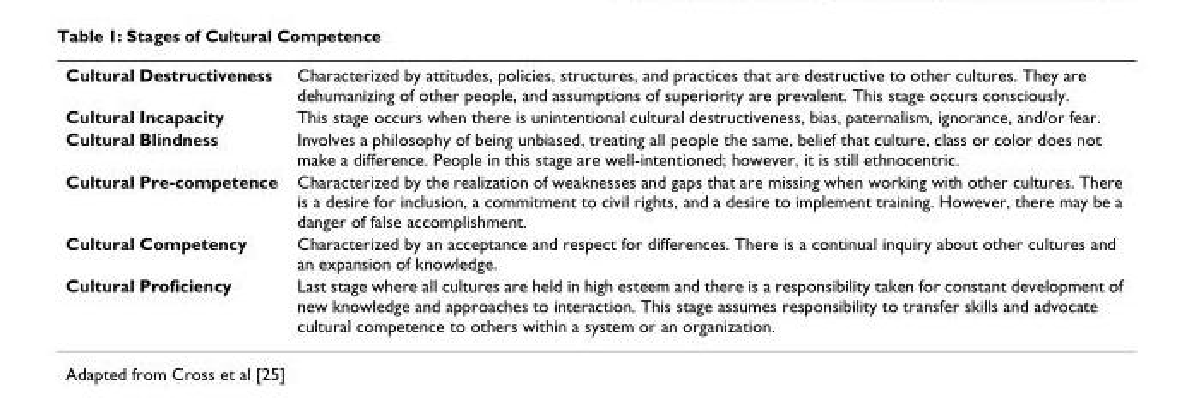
<table><tbody><tr><td>Cultural Destructiveness</td><td>Characterized by attitudes, policies, structures, and practices that are destructive to other cultures. They are dehumanizing of other people, and assumptions of superiority are prevalent. This stage occurs consciously.</td></tr><tr><td>Cultural Incapacity</td><td>This stage occurs when there is unintentional cultural destructiveness, bias, paternalism, ignorance, and/or fear.</td></tr><tr><td>Cultural Blindness</td><td>Involves a philosophy of being unbiased, treating all people the same, belief that culture, class or color does not make a difference. People in this stage are well-intentioned; however, it is still ethnocentric.</td></tr><tr><td>Cultural Pre-competence</td><td>Characterized by the realization of weaknesses and gaps that are missing when working with other cultures. There is a desire for inclusion, a commitment to civil rights, and a desire to implement training. However, there may be a danger of false accomplishment.</td></tr><tr><td>Cultural Competency</td><td>Characterized by an acceptance and respect for differences. There is a continual inquiry about other cultures and an expansion of knowledge.</td></tr><tr><td>Cultural Proficiency</td><td>Last stage where all cultures are held in high esteem and there is a responsibility taken for constant development of new knowledge and approaches to interaction. This stage assumes responsibility to transfer skills and advocate cultural competence to others within a system or an organization.</td></tr></tbody></table>